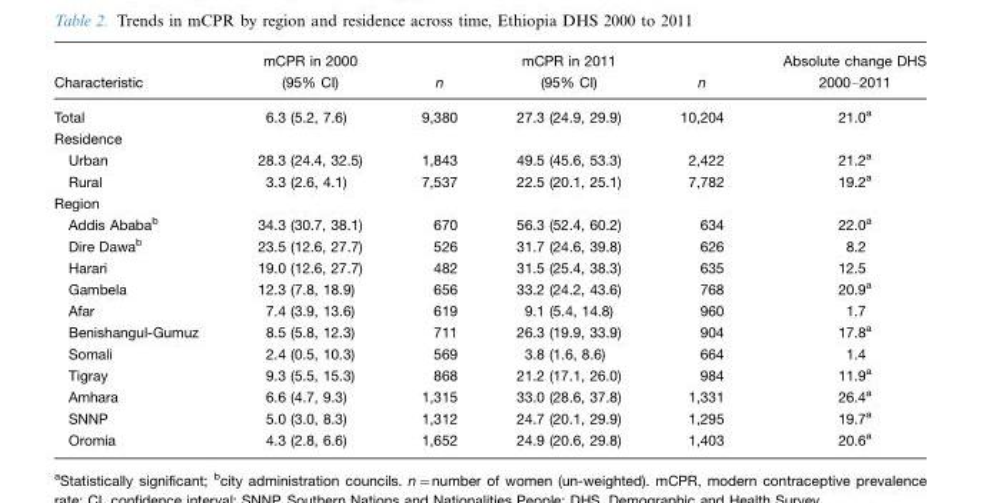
<table><thead><tr><td>Characteristic</td><td>mCPR in 2000 (95% CI)</td><td>n</td><td>mCPR in 2011 (95% CI)</td><td>n</td><td>Absolute change DHS 2000–2011</td></tr></thead><tbody><tr><td>Total</td><td>6.3 (5.2, 7.6)</td><td>9,380</td><td>27.3 (24.9, 29.9)</td><td>10,204</td><td>21.0<sup>a</sup></td></tr><tr><td colspan="6">Residence</td></tr><tr><td>Urban</td><td>28.3 (24.4, 32.5)</td><td>1,843</td><td>49.5 (45.6, 53.3)</td><td>2,422</td><td>21.2<sup>a</sup></td></tr><tr><td>Rural</td><td>3.3 (2.6, 4.1)</td><td>7,537</td><td>22.5 (20.1, 25.1)</td><td>7,782</td><td>19.2<sup>a</sup></td></tr><tr><td colspan="6">Region</td></tr><tr><td>Addis Ababa<sup>b</sup></td><td>34.3 (30.7, 38.1)</td><td>670</td><td>56.3 (52.4, 60.2)</td><td>634</td><td>22.0<sup>a</sup></td></tr><tr><td>Dire Dawa<sup>b</sup></td><td>23.5 (12.6, 27.7)</td><td>526</td><td>31.7 (24.6, 39.8)</td><td>626</td><td>8.2</td></tr><tr><td>Harari</td><td>19.0 (12.6, 27.7)</td><td>482</td><td>31.5 (25.4, 38.3)</td><td>635</td><td>12.5</td></tr><tr><td>Gambela</td><td>12.3 (7.8, 18.9)</td><td>656</td><td>33.2 (24.2, 43.6)</td><td>768</td><td>20.9<sup>a</sup></td></tr><tr><td>Afar</td><td>7.4 (3.9, 13.6)</td><td>619</td><td>9.1 (5.4, 14.8)</td><td>960</td><td>1.7</td></tr><tr><td>Benishangul-Gumuz</td><td>8.5 (5.8, 12.3)</td><td>711</td><td>26.3 (19.9, 33.9)</td><td>904</td><td>17.8<sup>a</sup></td></tr><tr><td>Somali</td><td>2.4 (0.5, 10.3)</td><td>569</td><td>3.8 (1.6, 8.6)</td><td>664</td><td>1.4</td></tr><tr><td>Tigray</td><td>9.3 (5.5, 15.3)</td><td>868</td><td>21.2 (17.1, 26.0)</td><td>984</td><td>11.9<sup>a</sup></td></tr><tr><td>Amhara</td><td>6.6 (4.7, 9.3)</td><td>1,315</td><td>33.0 (28.6, 37.8)</td><td>1,331</td><td>26.4<sup>a</sup></td></tr><tr><td>SNNP</td><td>5.0 (3.0, 8.3)</td><td>1,312</td><td>24.7 (20.1, 29.9)</td><td>1,295</td><td>19.7<sup>a</sup></td></tr><tr><td>Oromia</td><td>4.3 (2.8, 6.6)</td><td>1,652</td><td>24.9 (20.6, 29.8)</td><td>1,403</td><td>20.6<sup>a</sup></td></tr></tbody></table>